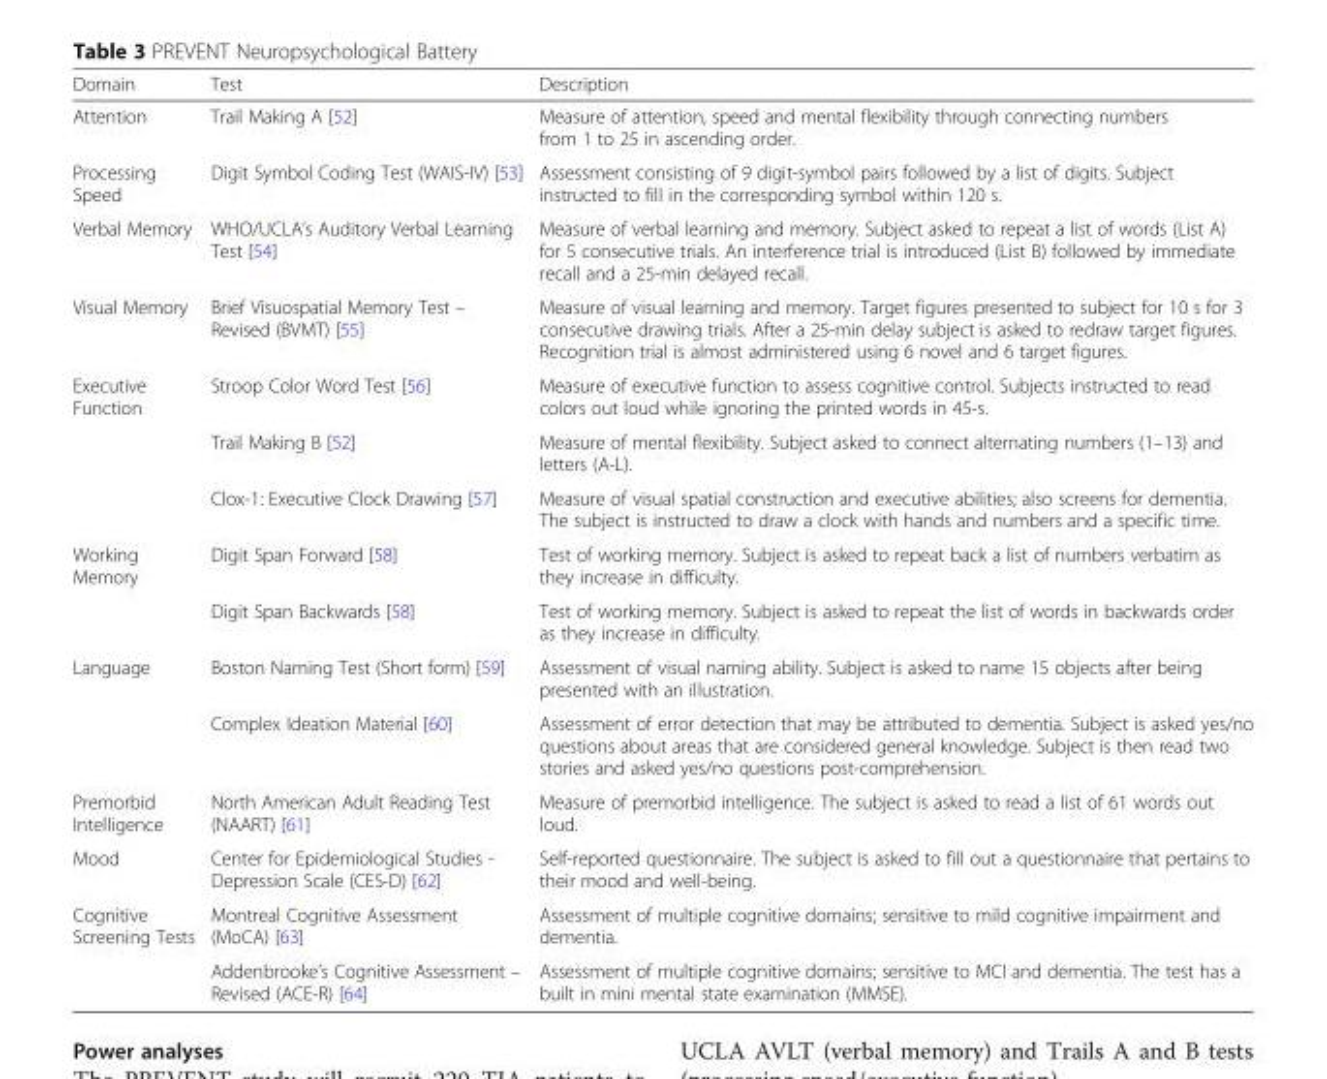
<table><thead><tr><td>Domain</td><td>Test</td><td>Description</td></tr></thead><tbody><tr><td>Attention</td><td>Trail Making A [52]</td><td>Measure of attention, speed and mental flexibility through connecting numbers from 1 to 25 in ascending order.</td></tr><tr><td>Processing Speed</td><td>Digit Symbol Coding Test (WAIS-IV) [53]</td><td>Assessment consisting of 9 digit-symbol pairs followed by a list of digits. Subject instructed to fill in the corresponding symbol within 120 s.</td></tr><tr><td>Verbal Memory</td><td>WHO/UCLA’s Auditory Verbal Learning Test [54]</td><td>Measure of verbal learning and memory. Subject asked to repeat a list of words (List A) for 5 consecutive trials. An interference trial is introduced (List B) followed by immediate recall and a 25-min delayed recall.</td></tr><tr><td>Visual Memory</td><td>Brief Visuospatial Memory Test – Revised (BVMT) [55]</td><td>Measure of visual learning and memory. Target figures presented to subject for 10 s for 3 consecutive drawing trials. After a 25-min delay subject is asked to redraw target figures. Recognition trial is almost administered using 6 novel and 6 target figures.</td></tr><tr><td rowspan="3">Executive Function</td><td>Stroop Color Word Test [56]</td><td>Measure of executive function to assess cognitive control. Subjects instructed to read colors out loud while ignoring the printed words in 45-s.</td></tr><tr><td>Trail Making B [52]</td><td>Measure of mental flexibility. Subject asked to connect alternating numbers (1–13) and letters (A-L).</td></tr><tr><td>Clox-1: Executive Clock Drawing [57]</td><td>Measure of visual spatial construction and executive abilities; also screens for dementia. The subject is instructed to draw a clock with hands and numbers and a specific time.</td></tr><tr><td rowspan="2">Working Memory</td><td>Digit Span Forward [58]</td><td>Test of working memory. Subject is asked to repeat back a list of numbers verbatim as they increase in difficulty.</td></tr><tr><td>Digit Span Backwards [58]</td><td>Test of working memory. Subject is asked to repeat the list of words in backwards order as they increase in difficulty.</td></tr><tr><td rowspan="2">Language</td><td>Boston Naming Test (Short form) [59]</td><td>Assessment of visual naming ability. Subject is asked to name 15 objects after being presented with an illustration.</td></tr><tr><td>Complex Ideation Material [60]</td><td>Assessment of error detection that may be attributed to dementia. Subject is asked yes/no questions about areas that are considered general knowledge. Subject is then read two stories and asked yes/no questions post-comprehension.</td></tr><tr><td>Premorbid Intelligence</td><td>North American Adult Reading Test (NAART) [61]</td><td>Measure of premorbid intelligence. The subject is asked to read a list of 61 words out loud.</td></tr><tr><td>Mood</td><td>Center for Epidemiological Studies - Depression Scale (CES-D) [62]</td><td>Self-reported questionnaire. The subject is asked to fill out a questionnaire that pertains to their mood and well-being.</td></tr><tr><td rowspan="2">Cognitive Screening Tests</td><td>Montreal Cognitive Assessment (MoCA) [63]</td><td>Assessment of multiple cognitive domains; sensitive to mild cognitive impairment and dementia.</td></tr><tr><td>Addenbrooke’s Cognitive Assessment – Revised (ACE-R) [64]</td><td>Assessment of multiple cognitive domains; sensitive to MCI and dementia. The test has a built in mini mental state examination (MMSE).</td></tr></tbody></table>